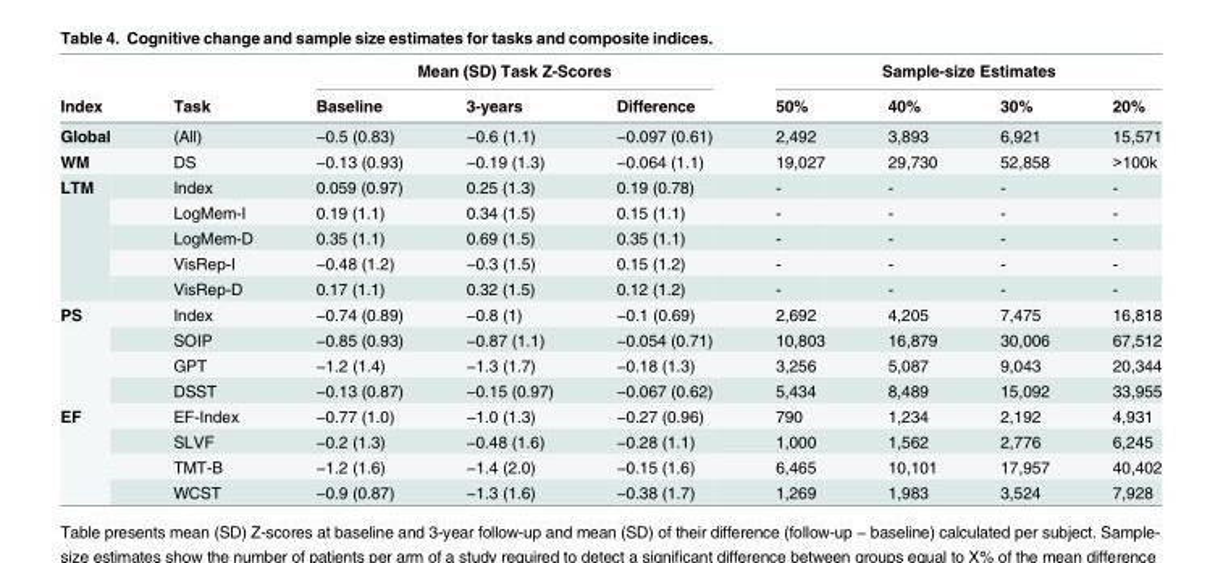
<table><thead><tr><td rowspan="2">Index</td><td rowspan="2">Task</td><td colspan="3">Mean (SD) Task Z-Scores</td><td colspan="4">Sample-size Estimates</td></tr><tr><td>Baseline</td><td>3-years</td><td>Difference</td><td>50%</td><td>40%</td><td>30%</td><td>20%</td></tr></thead><tbody><tr><td>Global</td><td>(All)</td><td>−0.5 (0.83)</td><td>−0.6 (1.1)</td><td>−0.097 (0.61)</td><td>2,492</td><td>3,893</td><td>6,921</td><td>15,571</td></tr><tr><td>WM</td><td>DS</td><td>−0.13 (0.93)</td><td>−0.19 (1.3)</td><td>−0.064 (1.1)</td><td>19,027</td><td>29,730</td><td>52,858</td><td>&gt;100k</td></tr><tr><td rowspan="5">LTM</td><td>Index</td><td>0.059 (0.97)</td><td>0.25 (1.3)</td><td>0.19 (0.78)</td><td>-</td><td>-</td><td>-</td><td>-</td></tr><tr><td>LogMem-I</td><td>0.19 (1.1)</td><td>0.34 (1.5)</td><td>0.15 (1.1)</td><td>-</td><td>-</td><td>-</td><td>-</td></tr><tr><td>LogMem-D</td><td>0.35 (1.1)</td><td>0.69 (1.5)</td><td>0.35 (1.1)</td><td>-</td><td>-</td><td>-</td><td>-</td></tr><tr><td>VisRep-I</td><td>−0.48 (1.2)</td><td>−0.3 (1.5)</td><td>0.15 (1.2)</td><td>-</td><td>-</td><td>-</td><td>-</td></tr><tr><td>VisRep-D</td><td>0.17 (1.1)</td><td>0.32 (1.5)</td><td>0.12 (1.2)</td><td>-</td><td>-</td><td>-</td><td>-</td></tr><tr><td rowspan="4">PS</td><td>Index</td><td>−0.74 (0.89)</td><td>−0.8 (1)</td><td>−0.1 (0.69)</td><td>2,692</td><td>4,205</td><td>7,475</td><td>16,818</td></tr><tr><td>SOIP</td><td>−0.85 (0.93)</td><td>−0.87 (1.1)</td><td>−0.054 (0.71)</td><td>10,803</td><td>16,879</td><td>30,006</td><td>67,512</td></tr><tr><td>GPT</td><td>−1.2 (1.4)</td><td>−1.3 (1.7)</td><td>−0.18 (1.3)</td><td>3,256</td><td>5,087</td><td>9,043</td><td>20,344</td></tr><tr><td>DSST</td><td>−0.13 (0.87)</td><td>−0.15 (0.97)</td><td>−0.067 (0.62)</td><td>5,434</td><td>8,489</td><td>15,092</td><td>33,955</td></tr><tr><td rowspan="4">EF</td><td>EF-Index</td><td>−0.77 (1.0)</td><td>−1.0 (1.3)</td><td>−0.27 (0.96)</td><td>790</td><td>1,234</td><td>2,192</td><td>4,931</td></tr><tr><td>SLVF</td><td>−0.2 (1.3)</td><td>−0.48 (1.6)</td><td>−0.28 (1.1)</td><td>1,000</td><td>1,562</td><td>2,776</td><td>6,245</td></tr><tr><td>TMT-B</td><td>−1.2 (1.6)</td><td>−1.4 (2.0)</td><td>−0.15 (1.6)</td><td>6,465</td><td>10,101</td><td>17,957</td><td>40,402</td></tr><tr><td>WCST</td><td>−0.9 (0.87)</td><td>−1.3 (1.6)</td><td>−0.38 (1.7)</td><td>1,269</td><td>1,983</td><td>3,524</td><td>7,928</td></tr></tbody></table>